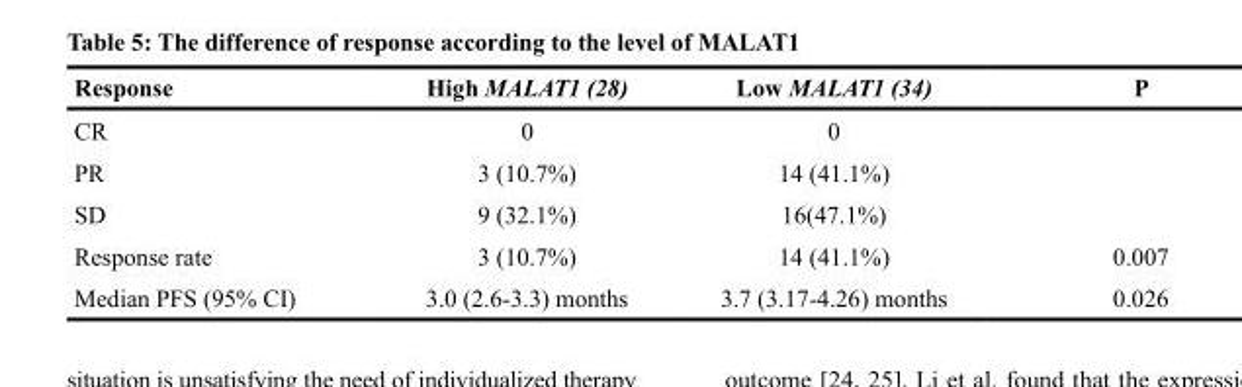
<table><thead><tr><td>Response</td><td>High MALAT1 (28)</td><td>Low MALAT1 (34)</td><td>P</td></tr></thead><tbody><tr><td>CR</td><td>0</td><td>0</td><td></td></tr><tr><td>PR</td><td>3 (10.7%)</td><td>14 (41.1%)</td><td></td></tr><tr><td>SD</td><td>9 (32.1%)</td><td>16(47.1%)</td><td></td></tr><tr><td>Response rate</td><td>3 (10.7%)</td><td>14 (41.1%)</td><td>0.007</td></tr><tr><td>Median PFS (95% CI)</td><td>3.0 (2.6-3.3) months</td><td>3.7 (3.17-4.26) months</td><td>0.026</td></tr></tbody></table>